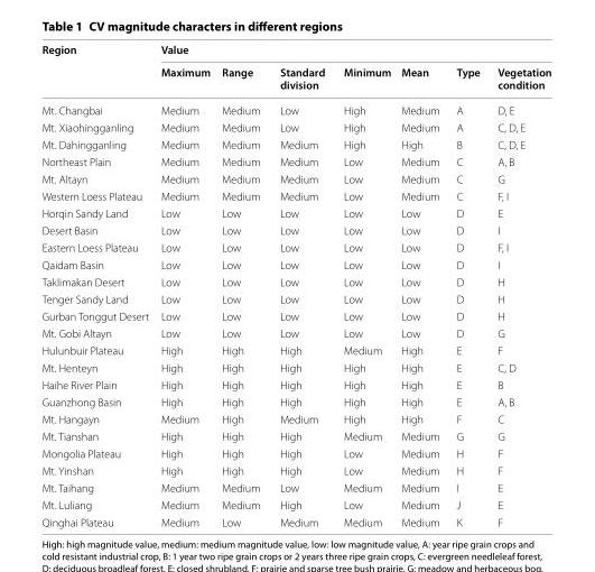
<table><thead><tr><td rowspan="2">Region</td><td colspan="7">Value</td></tr><tr><td>Maximum</td><td>Range</td><td>Standard division</td><td>Minimum</td><td>Mean</td><td>Type</td><td>Vegetation condition</td></tr></thead><tbody><tr><td>Mt. Changbai</td><td>Medium</td><td>Medium</td><td>Low</td><td>High</td><td>Medium</td><td>A</td><td>D, E</td></tr><tr><td>Mt. Xiaohingganling</td><td>Medium</td><td>Medium</td><td>Low</td><td>High</td><td>Medium</td><td>A</td><td>C, D, E</td></tr><tr><td>Mt. Dahingganling</td><td>Medium</td><td>Medium</td><td>Medium</td><td>High</td><td>High</td><td>B</td><td>C, D, E</td></tr><tr><td>Northeast Plain</td><td>Medium</td><td>Medium</td><td>Medium</td><td>Low</td><td>Medium</td><td>C</td><td>A, B</td></tr><tr><td>Mt. Altayn</td><td>Medium</td><td>Medium</td><td>Medium</td><td>Low</td><td>Medium</td><td>C</td><td>G</td></tr><tr><td>Western Loess Plateau</td><td>Medium</td><td>Medium</td><td>Medium</td><td>Low</td><td>Medium</td><td>C</td><td>F, I</td></tr><tr><td>Horqin Sandy Land</td><td>Low</td><td>Low</td><td>Low</td><td>Low</td><td>Low</td><td>D</td><td>E</td></tr><tr><td>Desert Basin</td><td>Low</td><td>Low</td><td>Low</td><td>Low</td><td>Low</td><td>D</td><td>I</td></tr><tr><td>Eastern Loess Plateau</td><td>Low</td><td>Low</td><td>Low</td><td>Low</td><td>Low</td><td>D</td><td>F, I</td></tr><tr><td>Qaidam Basin</td><td>Low</td><td>Low</td><td>Low</td><td>Low</td><td>Low</td><td>D</td><td>I</td></tr><tr><td>Taklimakan Desert</td><td>Low</td><td>Low</td><td>Low</td><td>Low</td><td>Low</td><td>D</td><td>H</td></tr><tr><td>Tenger Sandy Land</td><td>Low</td><td>Low</td><td>Low</td><td>Low</td><td>Low</td><td>D</td><td>H</td></tr><tr><td>Gurban Tonggut Desert</td><td>Low</td><td>Low</td><td>Low</td><td>Low</td><td>Low</td><td>D</td><td>H</td></tr><tr><td>Mt. Gobi Altayn</td><td>Low</td><td>Low</td><td>Low</td><td>Low</td><td>Low</td><td>D</td><td>G</td></tr><tr><td>Hulunbuir Plateau</td><td>High</td><td>High</td><td>High</td><td>Medium</td><td>High</td><td>E</td><td>F</td></tr><tr><td>Mt. Henteyn</td><td>High</td><td>High</td><td>High</td><td>High</td><td>High</td><td>E</td><td>C, D</td></tr><tr><td>Haihe River Plain</td><td>High</td><td>High</td><td>High</td><td>High</td><td>High</td><td>E</td><td>B</td></tr><tr><td>Guanzhong Basin</td><td>High</td><td>High</td><td>High</td><td>High</td><td>High</td><td>E</td><td>A, B</td></tr><tr><td>Mt. Hangayn</td><td>Medium</td><td>High</td><td>Medium</td><td>High</td><td>High</td><td>F</td><td>C</td></tr><tr><td>Mt. Tianshan</td><td>High</td><td>High</td><td>High</td><td>Medium</td><td>Medium</td><td>G</td><td>G</td></tr><tr><td>Mongolia Plateau</td><td>High</td><td>High</td><td>High</td><td>Low</td><td>Medium</td><td>H</td><td>F</td></tr><tr><td>Mt. Yinshan</td><td>High</td><td>High</td><td>High</td><td>Low</td><td>Medium</td><td>H</td><td>F</td></tr><tr><td>Mt. Taihang</td><td>Medium</td><td>Medium</td><td>Low</td><td>Medium</td><td>Medium</td><td>I</td><td>E</td></tr><tr><td>Mt. Luliang</td><td>Medium</td><td>Medium</td><td>High</td><td>Low</td><td>Medium</td><td>J</td><td>E</td></tr><tr><td>Qinghai Plateau</td><td>Medium</td><td>Low</td><td>Medium</td><td>Medium</td><td>Medium</td><td>K</td><td>F</td></tr></tbody></table>